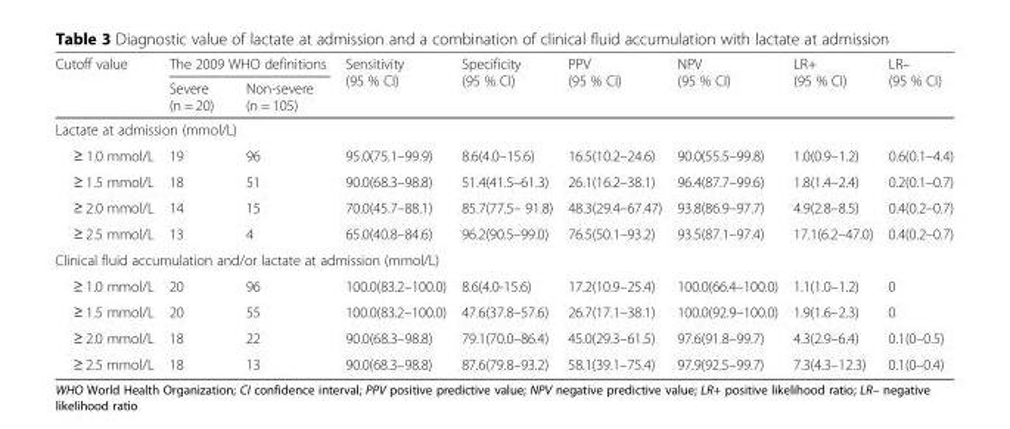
<table><thead><tr><td rowspan="2">Cutoff value</td><td colspan="2">The 2009 WHO definitions</td><td rowspan="2">Sensitivity (95 % CI)</td><td rowspan="2">Specificity (95 % CI)</td><td rowspan="2">PPV (95 % CI)</td><td rowspan="2">NPV (95 % CI)</td><td rowspan="2">LR+ (95 % CI)</td><td rowspan="2">LR– (95 % CI)</td></tr><tr><td>Severe (n = 20)</td><td>Non-severe (n = 105)</td></tr></thead><tbody><tr><td colspan="9">Lactate at admission (mmol/L)</td></tr><tr><td>≥ 1.0 mmol/L</td><td>19</td><td>96</td><td>95.0(75.1–99.9)</td><td>8.6(4.0–15.6)</td><td>16.5(10.2–24.6)</td><td>90.0(55.5–99.8)</td><td>1.0(0.9–1.2)</td><td>0.6(0.1–4.4)</td></tr><tr><td>≥ 1.5 mmol/L</td><td>18</td><td>51</td><td>90.0(68.3–98.8)</td><td>51.4(41.5–61.3)</td><td>26.1(16.2–38.1)</td><td>96.4(87.7–99.6)</td><td>1.8(1.4–2.4)</td><td>0.2(0.1–0.7)</td></tr><tr><td>≥ 2.0 mmol/L</td><td>14</td><td>15</td><td>70.0(45.7–88.1)</td><td>85.7(77.5– 91.8)</td><td>48.3(29.4–67.47)</td><td>93.8(86.9–97.7)</td><td>4.9(2.8–8.5)</td><td>0.4(0.2–0.7)</td></tr><tr><td>≥ 2.5 mmol/L</td><td>13</td><td>4</td><td>65.0(40.8–84.6)</td><td>96.2(90.5–99.0)</td><td>76.5(50.1–93.2)</td><td>93.5(87.1–97.4)</td><td>17.1(6.2–47.0)</td><td>0.4(0.2–0.7)</td></tr><tr><td colspan="9">Clinical fluid accumulation and/or lactate at admission (mmol/L)</td></tr><tr><td>≥ 1.0 mmol/L</td><td>20</td><td>96</td><td>100.0(83.2–100.0)</td><td>8.6(4.0-15.6)</td><td>17.2(10.9–25.4)</td><td>100.0(66.4–100.0)</td><td>1.1(1.0–1.2)</td><td>0</td></tr><tr><td>≥ 1.5 mmol/L</td><td>20</td><td>55</td><td>100.0(83.2–100.0)</td><td>47.6(37.8–57.6)</td><td>26.7(17.1–38.1)</td><td>100.0(92.9–100.0)</td><td>1.9(1.6–2.3)</td><td>0</td></tr><tr><td>≥ 2.0 mmol/L</td><td>18</td><td>22</td><td>90.0(68.3–98.8)</td><td>79.1(70.0–86.4)</td><td>45.0(29.3–61.5)</td><td>97.6(91.8–99.7)</td><td>4.3(2.9–6.4)</td><td>0.1(0–0.5)</td></tr><tr><td>≥ 2.5 mmol/L</td><td>18</td><td>13</td><td>90.0(68.3–98.8)</td><td>87.6(79.8–93.2)</td><td>58.1(39.1–75.4)</td><td>97.9(92.5–99.7)</td><td>7.3(4.3–12.3)</td><td>0.1(0–0.4)</td></tr></tbody></table>